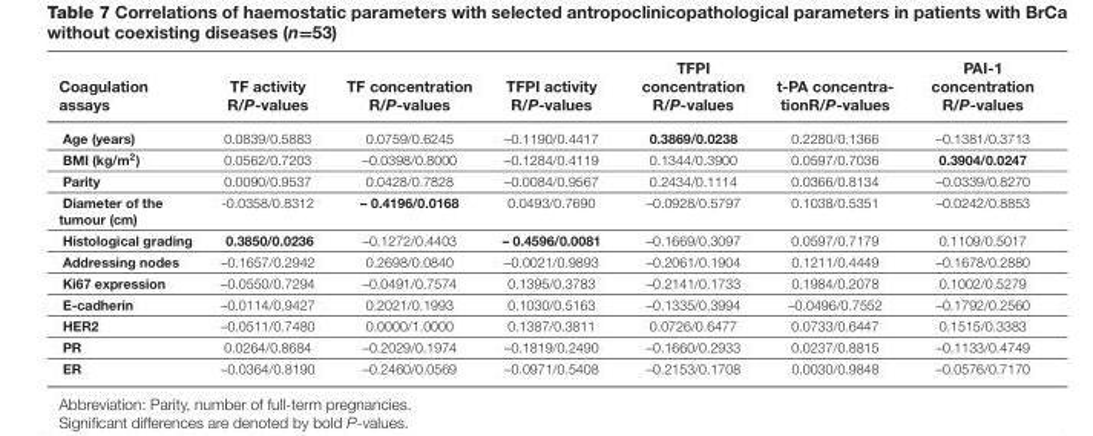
<table><thead><tr><td>Coagulation assays</td><td>TF activity R/P-values</td><td>TF concentration R/P-values</td><td>TFPI activity R/P-values</td><td>TFPI concentration R/P-values</td><td>t-PA concentra- tionR/P-values</td><td>PAI-1 concentration R/P-values</td></tr></thead><tbody><tr><td>Age (years)</td><td>0.0839/0.5883</td><td>0.0759/0.6245</td><td>–0.1190/0.4417</td><td>0.3869/0.0238</td><td>0.2280/0.1366</td><td>–0.1381/0.3713</td></tr><tr><td>BMI (kg/m<sup>2</sup>)</td><td>0.0562/0.7203</td><td>–0.0398/0.8000</td><td>–0.1284/0.4119</td><td>0.1344/0.3900</td><td>0.0597/0.7036</td><td>0.3904/0.0247</td></tr><tr><td>Parity</td><td>0.0090/0.9537</td><td>0.0428/0.7828</td><td>–0.0084/0.9567</td><td>0.2434/0.1114</td><td>0.0366/0.8134</td><td>–0.0339/0.8270</td></tr><tr><td>Diameter of the tumour (cm)</td><td>-0.0358/0.8312</td><td>– 0.4196/0.0168</td><td>0.0493/0.7690</td><td>–0.0928/0.5797</td><td>0.1038/0.5351</td><td>–0.0242/0.8853</td></tr><tr><td>Histological grading</td><td>0.3850/0.0236</td><td>–0.1272/0.4403</td><td>– 0.4596/0.0081</td><td>–0.1669/0.3097</td><td>0.0597/0.7179</td><td>0.1109/0.5017</td></tr><tr><td>Addressing nodes</td><td>–0.1657/0.2942</td><td>0.2698/0.0840</td><td>–0.0021/0.9893</td><td>–0.2061/0.1904</td><td>0.1211/0.4449</td><td>–0.1678/0.2880</td></tr><tr><td>Ki67 expression</td><td>–0.0550/0.7294</td><td>–0.0491/0.7574</td><td>0.1395/0.3783</td><td>–0.2141/0.1733</td><td>0.1984/0.2078</td><td>0.1002/0.5279</td></tr><tr><td>E-cadherin</td><td>–0.0114/0.9427</td><td>0.2021/0.1993</td><td>0.1030/0.5163</td><td>–0.1335/0.3994</td><td>–0.0496/0.7552</td><td>–0.1792/0.2560</td></tr><tr><td>HER2</td><td>–0.0511/0.7480</td><td>0.0000/1.0000</td><td>0.1387/0.3811</td><td>0.0726/0.6477</td><td>0.0733/0.6447</td><td>0.1515/0.3383</td></tr><tr><td>PR</td><td>0.0264/0.8684</td><td>–0.2029/0.1974</td><td>–0.1819/0.2490</td><td>–0.1660/0.2933</td><td>0.0237/0.8815</td><td>–0.1133/0.4749</td></tr><tr><td>ER</td><td>–0.0364/0.8190</td><td>–0.2460/0.0569</td><td>–0.0971/0.5408</td><td>–0.2153/0.1708</td><td>0.0030/0.9848</td><td>–0.0576/0.7170</td></tr></tbody></table>